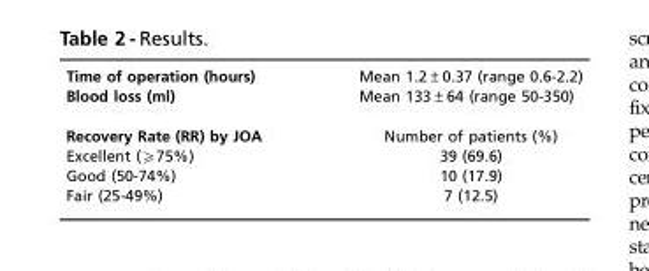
<table><tbody><tr><td>Time of operation (hours)</td><td>Mean 1.2±0.37 (range 0.6-2.2)</td></tr><tr><td>Blood loss (ml)</td><td>Mean 133±64 (range 50-350)</td></tr><tr><td>Recovery Rate (RR) by JOA</td><td>Number of patients (%)</td></tr><tr><td>Excellent (≥75%)</td><td>39 (69.6)</td></tr><tr><td>Good (50-74%)</td><td>10 (17.9)</td></tr><tr><td>Fair (25-49%)</td><td>7 (12.5)</td></tr></tbody></table>